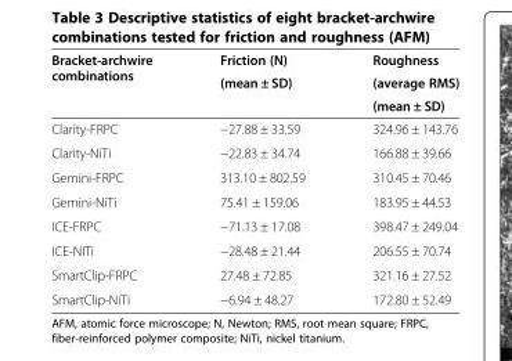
<table><thead><tr><td rowspan="3">Bracket-archwire combinations</td><td rowspan="3">Friction (N) (mean ± SD)</td><td rowspan="3">Roughness (average RMS) (mean ± SD)</td></tr><tr></tr><tr></tr></thead><tbody><tr><td>Clarity-FRPC</td><td>−27.88 ± 33.59</td><td>324.96 ± 143.76</td></tr><tr><td>Clarity-NiTi</td><td>−22.83 ± 34.74</td><td>166.88 ± 39.66</td></tr><tr><td>Gemini-FRPC</td><td>313.10 ± 802.59</td><td>310.45 ± 70.46</td></tr><tr><td>Gemini-NiTi</td><td>75.41 ± 159.06</td><td>183.95 ± 44.53</td></tr><tr><td>ICE-FRPC</td><td>−71.13 ± 17.08</td><td>398.47 ± 249.04</td></tr><tr><td>ICE-NITi</td><td>−28.48 ± 21.44</td><td>206.55 ± 70.74</td></tr><tr><td>SmartClip-FRPC</td><td>27.48 ± 72.85</td><td>321.16 ± 27.52</td></tr><tr><td>SmartClip-NiTi</td><td>−6.94 ± 48.27</td><td>172.80 ± 52.49</td></tr></tbody></table>